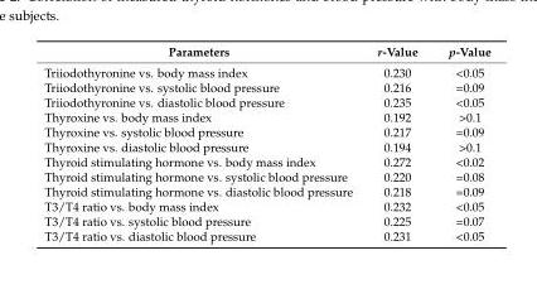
<table><thead><tr><td>Parameters</td><td>r-Value</td><td>p-Value</td></tr></thead><tbody><tr><td>Triiodothyronine vs. body mass index</td><td>0.230</td><td>&lt;0.05</td></tr><tr><td>Triiodothyronine vs. systolic blood pressure</td><td>0.216</td><td>=0.09</td></tr><tr><td>Triiodothyronine vs. diastolic blood pressure</td><td>0.235</td><td>&lt;0.05</td></tr><tr><td>Thyroxine vs. body mass index</td><td>0.192</td><td>&gt;0.1</td></tr><tr><td>Thyroxine vs. systolic blood pressure</td><td>0.217</td><td>=0.09</td></tr><tr><td>Thyroxine vs. diastolic blood pressure</td><td>0.194</td><td>&gt;0.1</td></tr><tr><td>Thyroid stimulating hormone vs. body mass index</td><td>0.272</td><td>&lt;0.02</td></tr><tr><td>Thyroid stimulating hormone vs. systolic blood pressure</td><td>0.220</td><td>=0.08</td></tr><tr><td>Thyroid stimulating hormone vs. diastolic blood pressure</td><td>0.218</td><td>=0.09</td></tr><tr><td>T3/T4 ratio vs. body mass index</td><td>0.232</td><td>&lt;0.05</td></tr><tr><td>T3/T4 ratio vs. systolic blood pressure</td><td>0.225</td><td>=0.07</td></tr><tr><td>T3/T4 ratio vs. diastolic blood pressure</td><td>0.231</td><td>&lt;0.05</td></tr></tbody></table>